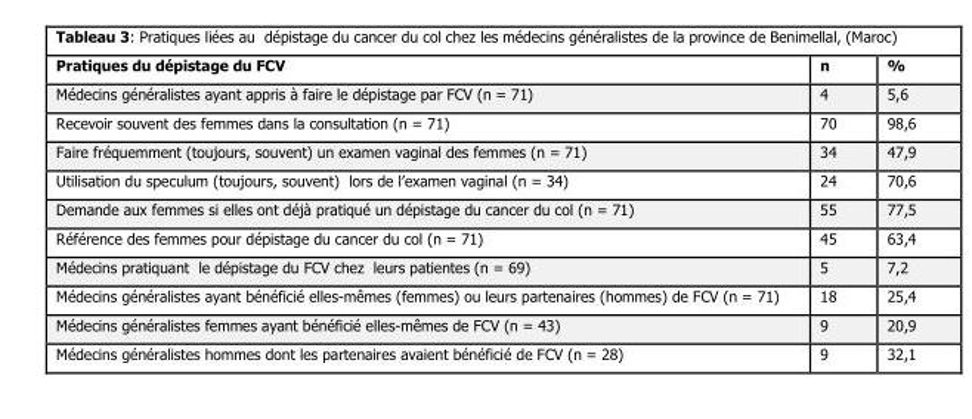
<table><thead><tr><td>Pratiques du dépistage du FCV</td><td>n</td><td>%</td></tr></thead><tbody><tr><td>Médecins généralistes ayant appris à faire le dépistage par FCV (n = 71)</td><td>4</td><td>5,6</td></tr><tr><td>Recevoir souvent des femmes dans la consultation (n = 71)</td><td>70</td><td>98,6</td></tr><tr><td>Faire fréquemment (toujours, souvent) un examen vaginal des femmes (n = 71)</td><td>34</td><td>47,9</td></tr><tr><td>Utilisation du speculum (toujours, souvent) lors de l’examen vaginal (n = 34)</td><td>24</td><td>70,6</td></tr><tr><td>Demande aux femmes si elles ont déjà pratiqué un dépistage du cancer du col (n = 71)</td><td>55</td><td>77,5</td></tr><tr><td>Référence des femmes pour dépistage du cancer du col (n = 71)</td><td>45</td><td>63,4</td></tr><tr><td>Médecins pratiquant le dépistage du FCV chez leurs patientes (n = 69)</td><td>5</td><td>7,2</td></tr><tr><td>Médecins généralistes ayant bénéficié elles-mêmes (femmes) ou leurs partenaires (hommes) de FCV (n = 71)</td><td>18</td><td>25,4</td></tr><tr><td>Médecins généralistes femmes ayant bénéficié elles-mêmes de FCV (n = 43)</td><td>9</td><td>20,9</td></tr><tr><td>Médecins généralistes hommes dont les partenaires avaient bénéficié de FCV (n = 28)</td><td>9</td><td>32,1</td></tr></tbody></table>